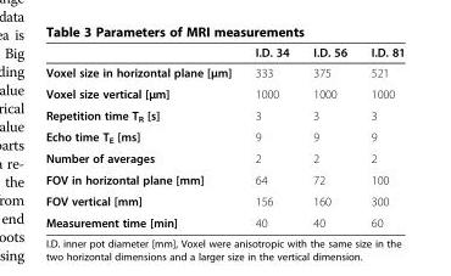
<table><thead><tr><td></td><td>I.D. 34</td><td>I.D. 56</td><td>I.D. 81</td></tr></thead><tbody><tr><td>Voxel size in horizontal plane [μm]</td><td>333</td><td>375</td><td>521</td></tr><tr><td>Voxel size vertical [μm]</td><td>1000</td><td>1000</td><td>1000</td></tr><tr><td>Repetition time T<sub>R</sub> [s]</td><td>3</td><td>3</td><td>3</td></tr><tr><td>Echo time T<sub>E</sub> [ms]</td><td>9</td><td>9</td><td>9</td></tr><tr><td>Number of averages</td><td>2</td><td>2</td><td>2</td></tr><tr><td>FOV in horizontal plane [mm]</td><td>64</td><td>72</td><td>100</td></tr><tr><td>FOV vertical [mm]</td><td>156</td><td>160</td><td>300</td></tr><tr><td>Measurement time [min]</td><td>40</td><td>40</td><td>60</td></tr></tbody></table>